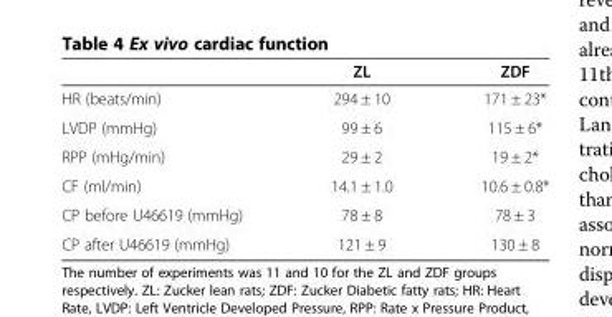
<table><thead><tr><td></td><td>ZL</td><td>ZDF</td></tr></thead><tbody><tr><td>HR (beats/min)</td><td>294 ± 10</td><td>171 ± 23*</td></tr><tr><td>LVDP (mmHg)</td><td>99 ± 6</td><td>115 ± 6*</td></tr><tr><td>RPP (mHg/min)</td><td>29 ± 2</td><td>19 ± 2*</td></tr><tr><td>CF (ml/min)</td><td>14.1 ± 1.0</td><td>10.6 ± 0.8*</td></tr><tr><td>CP before U46619 (mmHg)</td><td>78 ± 8</td><td>78 ± 3</td></tr><tr><td>CP after U46619 (mmHg)</td><td>121 ± 9</td><td>130 ± 8</td></tr></tbody></table>